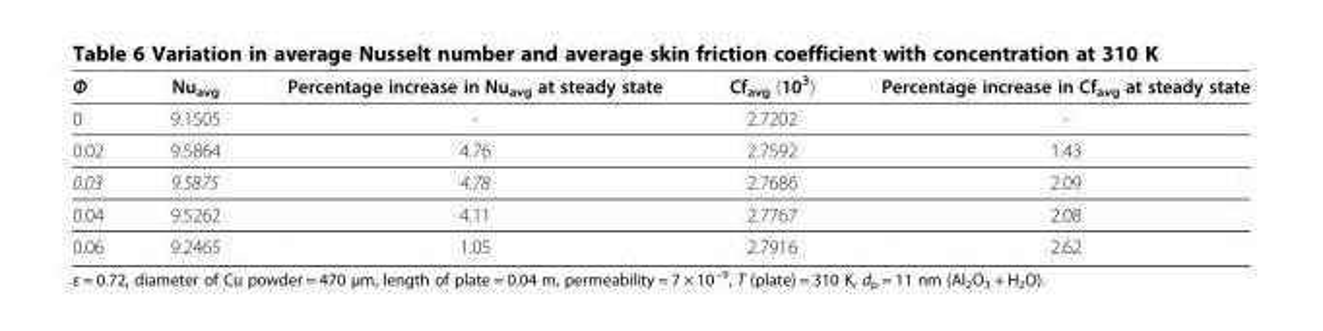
<table><thead><tr><td>Φ</td><td>Nu<sub>avg</sub></td><td>Percentage increase in Nu<sub>avg</sub> at steady state</td><td>Cf<sub>avg</sub> (10<sup>3</sup>)</td><td>Percentage increase in Cf<sub>avg</sub> at steady state</td></tr></thead><tbody><tr><td>0</td><td>9.1505</td><td>-</td><td>2.7202</td><td>-</td></tr><tr><td>0.02</td><td>9.5864</td><td>4.76</td><td>2.7592</td><td>1.43</td></tr><tr><td>0.03</td><td>9.5875</td><td>4.78</td><td>2.7686</td><td>2.09</td></tr><tr><td>0.04</td><td>9.5262</td><td>4.11</td><td>2.7767</td><td>2.08</td></tr><tr><td>0.06</td><td>9.2465</td><td>1.05</td><td>2.7916</td><td>2.62</td></tr></tbody></table>